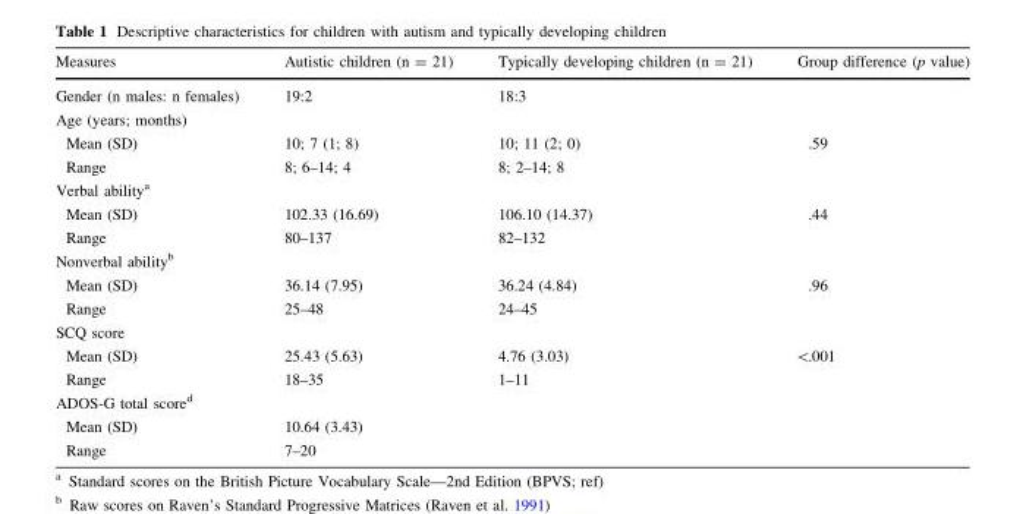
<table><thead><tr><td>Measures</td><td>Autistic children (n = 21)</td><td>Typically developing children (n = 21)</td><td>Group difference (p value)</td></tr></thead><tbody><tr><td>Gender (n males: n females)</td><td>19:2</td><td>18:3</td><td></td></tr><tr><td colspan="4">Age (years; months)</td></tr><tr><td>Mean (SD)</td><td>10; 7 (1; 8)</td><td>10; 11 (2; 0)</td><td>.59</td></tr><tr><td>Range</td><td>8; 6–14; 4</td><td>8; 2–14; 8</td><td></td></tr><tr><td colspan="4">Verbal ability<sup>a</sup></td></tr><tr><td>Mean (SD)</td><td>102.33 (16.69)</td><td>106.10 (14.37)</td><td>.44</td></tr><tr><td>Range</td><td>80–137</td><td>82–132</td><td></td></tr><tr><td colspan="4">Nonverbal ability<sup>b</sup></td></tr><tr><td>Mean (SD)</td><td>36.14 (7.95)</td><td>36.24 (4.84)</td><td>.96</td></tr><tr><td>Range</td><td>25–48</td><td>24–45</td><td></td></tr><tr><td colspan="4">SCQ score</td></tr><tr><td>Mean (SD)</td><td>25.43 (5.63)</td><td>4.76 (3.03)</td><td>&lt;.001</td></tr><tr><td>Range</td><td>18–35</td><td>1–11</td><td></td></tr><tr><td colspan="4">ADOS-G total score<sup>d</sup></td></tr><tr><td>Mean (SD)</td><td>10.64 (3.43)</td><td></td><td></td></tr><tr><td>Range</td><td>7–20</td><td></td><td></td></tr></tbody></table>